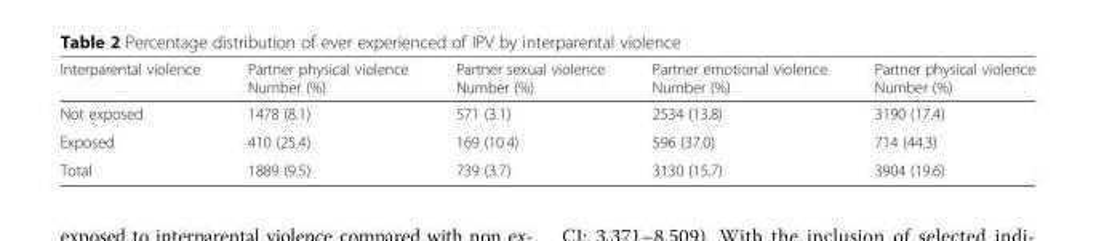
<table><thead><tr><td>Interparental violence</td><td>Partner physical violence Number (%)</td><td>Partner sexual violence Number (%)</td><td>Partner emotional violence Number (%)</td><td>Partner physical violence Number (%)</td></tr></thead><tbody><tr><td>Not exposed</td><td>1478 (8.1)</td><td>571 (3.1)</td><td>2534 (13.8)</td><td>3190 (17.4)</td></tr><tr><td>Exposed</td><td>410 (25.4)</td><td>169 (10.4)</td><td>596 (37.0)</td><td>714 (44.3)</td></tr><tr><td>Total</td><td>1889 (9.5)</td><td>739 (3.7)</td><td>3130 (15.7)</td><td>3904 (19.6)</td></tr></tbody></table>